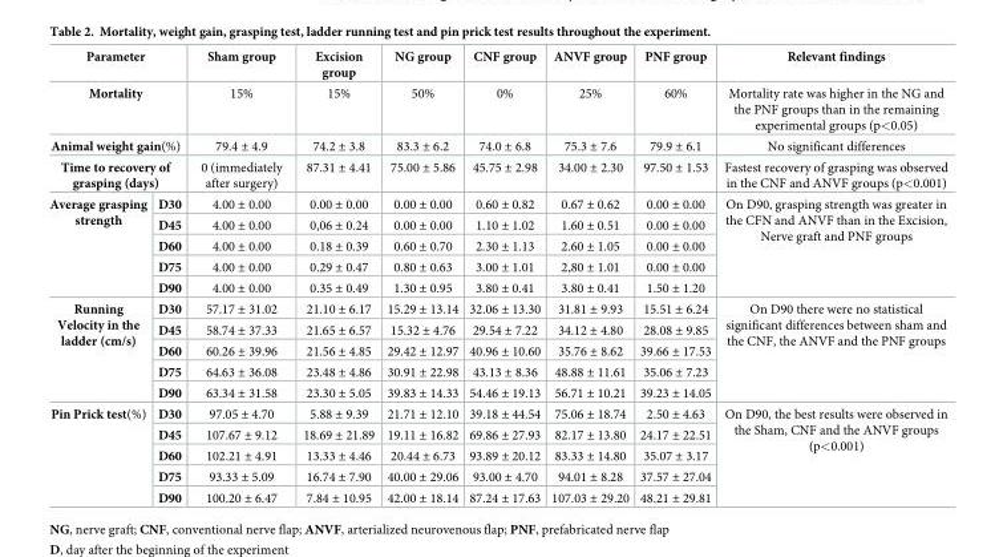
<table><thead><tr><td colspan="2">Parameter</td><td>Sham group</td><td>Excision group</td><td>NG group</td><td>CNF group</td><td>ANVF group</td><td>PNF group</td><td>Relevant findings</td></tr></thead><tbody><tr><td colspan="2">Mortality</td><td>15%</td><td>15%</td><td>50%</td><td>0%</td><td>25%</td><td>60%</td><td>Mortality rate was higher in the NG and the PNF groups than in the remaining experimental groups (p&lt;0.05)</td></tr><tr><td colspan="2">Animal weight gain(%)</td><td>79.4 ± 4.9</td><td>74.2 ± 3.8</td><td>83.3 ± 6.2</td><td>74.0 ± 6.8</td><td>75.3 ± 7.6</td><td>79.9 ± 6.1</td><td>No significant differences</td></tr><tr><td colspan="2">Time to recovery of grasping (days)</td><td>0 (immediately after surgery)</td><td>87.31 ± 4.41</td><td>75.00 ± 5.86</td><td>45.75 ± 2.98</td><td>34.00 ± 2.30</td><td>97.50 ± 1.53</td><td>Fastest recovery of grasping was observed in the CNF and ANVF groups (p&lt;0.001)</td></tr><tr><td rowspan="5">Average grasping strength</td><td>D30</td><td>4.00 ± 0.00</td><td>0.00 ± 0.00</td><td>0.00 ± 0.00</td><td>0.60 ± 0.82</td><td>0.67 ± 0.62</td><td>0.00 ± 0.00</td><td rowspan="5">On D90, grasping strength was greater in the CFN and ANVF than in the Excision, Nerve graft and PNF groups</td></tr><tr><td>D45</td><td>4.00 ± 0.00</td><td>0,06 ± 0.24</td><td>0.00 ± 0.00</td><td>1.10 ± 1.02</td><td>1.60 ± 0.51</td><td>0.00 ± 0.00</td></tr><tr><td>D60</td><td>4.00 ± 0.00</td><td>0.18 ± 0.39</td><td>0.60 ± 0.70</td><td>2.30 ± 1.13</td><td>2.60 ± 1.05</td><td>0.00 ± 0.00</td></tr><tr><td>D75</td><td>4.00 ± 0.00</td><td>0.29 ± 0.47</td><td>0.80 ± 0.63</td><td>3.00 ± 1.01</td><td>2,80 ± 1.01</td><td>0.00 ± 0.00</td></tr><tr><td>D90</td><td>4.00 ± 0.00</td><td>0.35 ± 0.49</td><td>1.30 ± 0.95</td><td>3.80 ± 0.41</td><td>3.80 ± 0.41</td><td>1.50 ± 1.20</td></tr><tr><td rowspan="5">Running Velocity in the ladder (cm/s)</td><td>D30</td><td>57.17 ± 31.02</td><td>21.10 ± 6.17</td><td>15.29 ± 13.14</td><td>32.06 ± 13.30</td><td>31.81 ± 9.93</td><td>15.51 ± 6.24</td><td rowspan="5">On D90 there were no statistical significant differences between sham and the CNF, the ANVF and the PNF groups</td></tr><tr><td>D45</td><td>58.74 ± 37.33</td><td>21.65 ± 6.57</td><td>15.32 ± 4.76</td><td>29.54 ± 7.22</td><td>34.12 ± 4.80</td><td>28.08 ± 9.85</td></tr><tr><td>D60</td><td>60.26 ± 39.96</td><td>21.56 ± 4.85</td><td>29.42 ± 12.97</td><td>40.96 ± 10.60</td><td>35.76 ± 8.62</td><td>39.66 ± 17.53</td></tr><tr><td>D75</td><td>64.63 ± 36.08</td><td>23.48 ± 4.86</td><td>30.91 ± 22.98</td><td>43.13 ± 8.36</td><td>48.88 ± 11.61</td><td>35.06 ± 7.23</td></tr><tr><td>D90</td><td>63.34 ± 31.58</td><td>23.30 ± 5.05</td><td>39.83 ± 14.33</td><td>54.46 ± 19.13</td><td>56.71 ± 10.21</td><td>39.23 ± 14.05</td></tr><tr><td rowspan="5">Pin Prick test(%)</td><td>D30</td><td>97.05 ± 4.70</td><td>5.88 ± 9.39</td><td>21.71 ± 12.10</td><td>39.18 ± 44.54</td><td>75.06 ± 18.74</td><td>2.50 ± 4.63</td><td rowspan="5">On D90, the best results were observed in the Sham, CNF and the ANVF groups (p&lt;0.001)</td></tr><tr><td>D45</td><td>107.67 ± 9.12</td><td>18.69 ± 21.89</td><td>19.11 ± 16.82</td><td>69.86 ± 27.93</td><td>82.17 ± 13.80</td><td>24.17 ± 22.51</td></tr><tr><td>D60</td><td>102.21 ± 4.91</td><td>13.33 ± 4.46</td><td>20.44 ± 6.73</td><td>93.89 ± 20.12</td><td>83.33 ± 14.80</td><td>35.07 ± 3.17</td></tr><tr><td>D75</td><td>93.33 ± 5.09</td><td>16.74 ± 7.90</td><td>40.00 ± 29.06</td><td>93.00 ± 4.70</td><td>94.01 ± 8.28</td><td>37.57 ± 27.04</td></tr><tr><td>D90</td><td>100.20 ± 6.47</td><td>7.84 ± 10.95</td><td>42.00 ± 18.14</td><td>87.24 ± 17.63</td><td>107.03 ± 29.20</td><td>48.21 ± 29.81</td></tr></tbody></table>